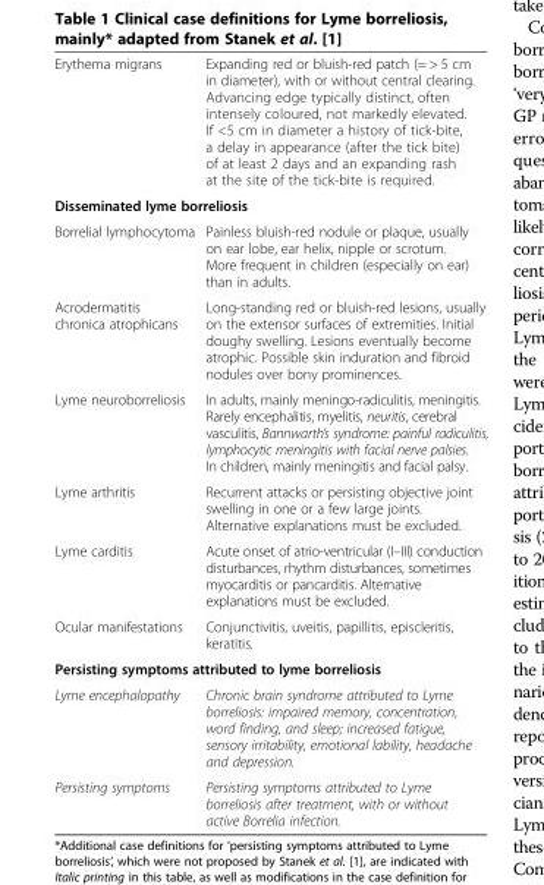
<table><tbody><tr><td>Erythema migrans</td><td>Expanding red or bluish-red patch (= &gt; 5 cm in diameter), with or without central clearing. Advancing edge typically distinct, often intensely coloured, not markedly elevated. If &lt;5 cm in diameter a history of tick-bite, a delay in appearance (after the tick bite) of at least 2 days and an expanding rash at the site of the tick-bite is required.</td></tr><tr><td colspan="2">Disseminated lyme borreliosis</td></tr><tr><td>Borrelial lymphocytoma</td><td>Painless bluish-red nodule or plaque, usually on ear lobe, ear helix, nipple or scrotum. More frequent in children (especially on ear) than in adults.</td></tr><tr><td>Acrodermatitis chronica atrophicans</td><td>Long-standing red or bluish-red lesions, usually on the extensor surfaces of extremities. Initial doughy swelling. Lesions eventually become atrophic. Possible skin induration and fibroid nodules over bony prominences.</td></tr><tr><td>Lyme neuroborreliosis</td><td>In adults, mainly meningo-radiculitis, meningitis. Rarely encephalitis, myelitis, neuritis, cerebral vasculitis, Bannwarth’s syndrome: painful radiculitis, lymphocytic meningitis with facial nerve palsies. In children, mainly meningitis and facial palsy.</td></tr><tr><td>Lyme arthritis</td><td>Recurrent attacks or persisting objective joint swelling in one or a few large joints. Alternative explanations must be excluded.</td></tr><tr><td>Lyme carditis</td><td>Acute onset of atrio-ventricular (I–III) conduction disturbances, rhythm disturbances, sometimes myocarditis or pancarditis. Alternative explanations must be excluded.</td></tr><tr><td>Ocular manifestations</td><td>Conjunctivitis, uveitis, papillitis, episcleritis, keratitis.</td></tr><tr><td colspan="2">Persisting symptoms attributed to lyme borreliosis</td></tr><tr><td>Lyme encephalopathy</td><td>Chronic brain syndrome attributed to Lyme borreliosis: impaired memory, concentration, word finding, and sleep; increased fatigue, sensory irritability, emotional lability, headache and depression.</td></tr><tr><td>Persisting symptoms</td><td>Persisting symptoms attributed to Lyme borreliosis after treatment, with or without active Borrelia infection.</td></tr></tbody></table>